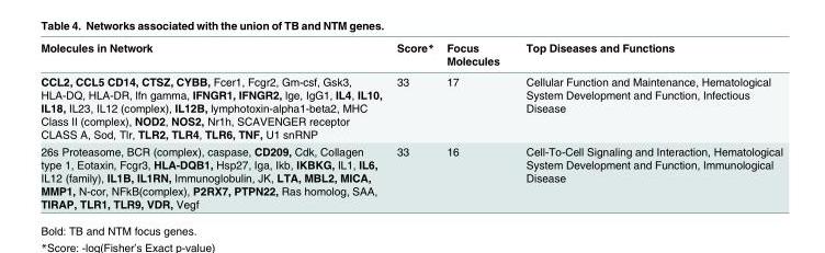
<table><thead><tr><td>Molecules in Network</td><td>Score*</td><td>Focus Molecules</td><td>Top Diseases and Functions</td></tr></thead><tbody><tr><td>CCL2, CCL5 CD14, CTSZ, CYBB, Fcer1, Fcgr2, Gm-csf, Gsk3, HLA-DQ, HLA-DR, lfn gamma, IFNGR1, IFNGR2, lge, IgG1, IL4, IL10, IL18, IL23, IL12 (complex), IL12B, lymphotoxin-alpha1-beta2, MHC Class II (complex), NOD2, NOS2, Nr1h, SCAVENGER receptor CLASS A, Sod, Tlr, TLR2, TLR4, TLR6, TNF, U1 snRNP</td><td>33</td><td>17</td><td>Cellular Function and Maintenance, Hematological System Development and Function, Infectious Disease</td></tr><tr><td>26s Proteasome, BCR (complex), caspase, CD209, Cdk, Collagen type 1, Eotaxin, Fcgr3, HLA-DQB1, Hsp27, Iga, Ikb, IKBKG, IL1, IL6, IL12 (family), IL1B, IL1RN, Immunoglobulin, JK, LTA, MBL2, MICA, MMP1, N-cor, NFkB(complex), P2RX7, PTPN22, Ras homolog, SAA, TIRAP, TLR1, TLR9, VDR, Vegf</td><td>33</td><td>16</td><td>Cell-To-Cell Signaling and Interaction, Hematological System Development and Function, Immunological Disease</td></tr></tbody></table>